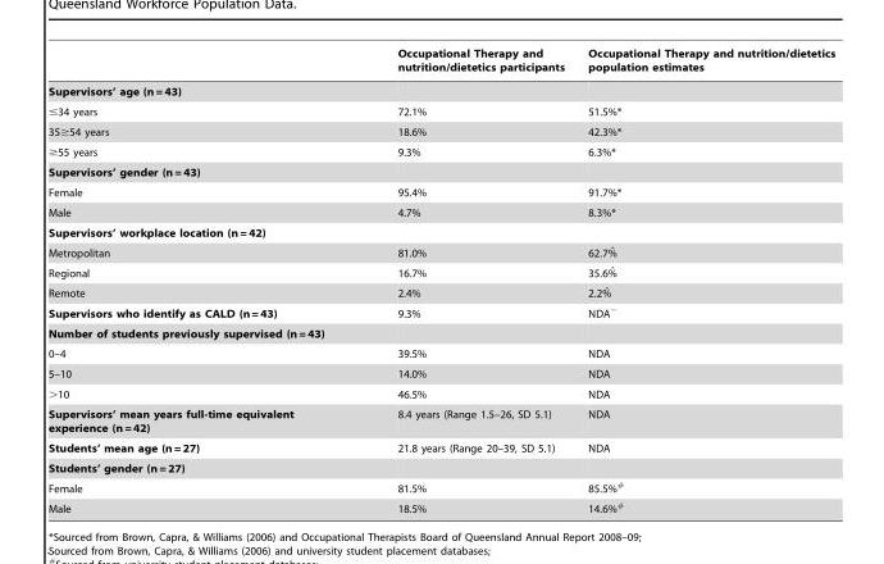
<table><thead><tr><td></td><td>Occupational Therapy and nutrition/dietetics participants</td><td>Occupational Therapy and nutrition/dietetics population estimates</td></tr></thead><tbody><tr><td colspan="3">Supervisors’ age (n = 43)</td></tr><tr><td>≤34 years</td><td>72.1%</td><td>51.5%*</td></tr><tr><td>35≥54 years</td><td>18.6%</td><td>42.3%*</td></tr><tr><td>≥55 years</td><td>9.3%</td><td>6.3%*</td></tr><tr><td colspan="3">Supervisors’ gender (n = 43)</td></tr><tr><td>Female</td><td>95.4%</td><td>91.7%*</td></tr><tr><td>Male</td><td>4.7%</td><td>8.3%*</td></tr><tr><td colspan="3">Supervisors’ workplace location (n = 42)</td></tr><tr><td>Metropolitan</td><td>81.0%</td><td>62.7%ˆ</td></tr><tr><td>Regional</td><td>16.7%</td><td>35.6%ˆ</td></tr><tr><td>Remote</td><td>2.4%</td><td>2.2%ˆ</td></tr><tr><td>Supervisors who identify as CALD (n = 43)</td><td>9.3%</td><td>NDA∼</td></tr><tr><td colspan="3">Number of students previously supervised (n = 43)</td></tr><tr><td>0–4</td><td>39.5%</td><td>NDA</td></tr><tr><td>5–10</td><td>14.0%</td><td>NDA</td></tr><tr><td>&gt;10</td><td>46.5%</td><td>NDA</td></tr><tr><td>Supervisors’ mean years full-time equivalent experience (n = 42)</td><td>8.4 years (Range 1.5–26, SD 5.1)</td><td>NDA</td></tr><tr><td>Students’ mean age (n = 27)</td><td>21.8 years (Range 20–39, SD 5.1)</td><td>NDA</td></tr><tr><td colspan="3">Students’ gender (n = 27)</td></tr><tr><td>Female</td><td>81.5%</td><td>85.5%#</td></tr><tr><td>Male</td><td>18.5%</td><td>14.6%#</td></tr></tbody></table>